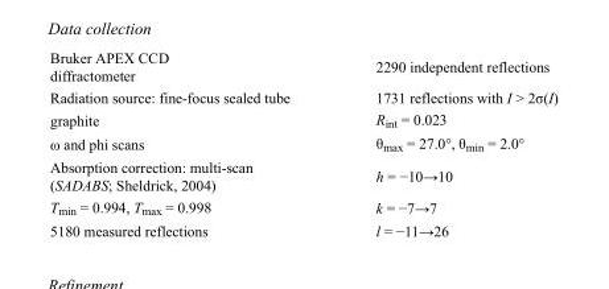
<table><tbody><tr><td>Bruker APEX CCD diffractometer</td><td>2290 independent reflections</td></tr><tr><td>Radiation source: fine-focus sealed tube</td><td>1731 reflections with I &gt; 2σ(I)</td></tr><tr><td>graphite</td><td>R<sub>int</sub> = 0.023</td></tr><tr><td>ω and phi scans</td><td>θ<sub>max</sub> = 27.0°, θ<sub>min</sub> = 2.0°</td></tr><tr><td>Absorption correction: multi-scan (SADABS; Sheldrick, 2004)</td><td>h = −10→10</td></tr><tr><td>T<sub>min</sub> = 0.994, T<sub>max</sub> = 0.998</td><td>k = −7→7</td></tr><tr><td>5180 measured reflections</td><td>l = −11→26</td></tr></tbody></table>